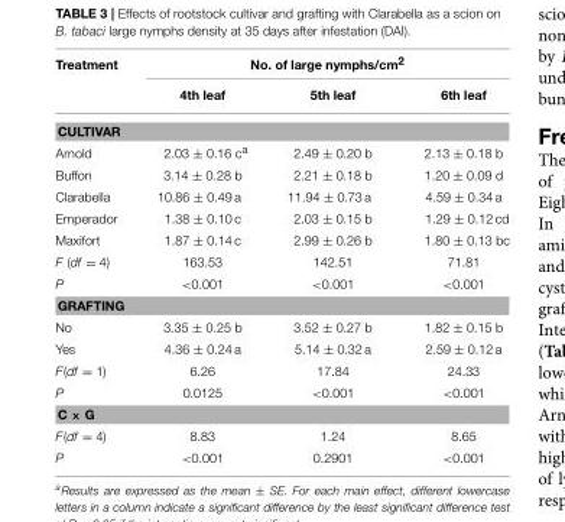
<table><thead><tr><td rowspan="2">Treatment</td><td colspan="3">No. of large nymphs/cm<sup>2</sup></td></tr><tr><td>4th leaf</td><td>5th leaf</td><td>6th leaf</td></tr></thead><tbody><tr><td colspan="4">CULTIVAR</td></tr><tr><td>Arnold</td><td>2.03 ± 0.16 c<sup>a</sup></td><td>2.49 ± 0.20 b</td><td>2.13 ± 0.18 b</td></tr><tr><td>Buffon</td><td>3.14 ± 0.28 b</td><td>2.21 ± 0.18 b</td><td>1.20 ± 0.09 d</td></tr><tr><td>Clarabella</td><td>10.86 ± 0.49 a</td><td>11.94 ± 0.73 a</td><td>4.59 ± 0.34 a</td></tr><tr><td>Emperador</td><td>1.38 ± 0.10 c</td><td>2.03 ± 0.15 b</td><td>1.29 ± 0.12 cd</td></tr><tr><td>Maxifort</td><td>1.87 ± 0.14 c</td><td>2.99 ± 0.26 b</td><td>1.80 ± 0.13 bc</td></tr><tr><td>F (df = 4)</td><td>163.53</td><td>142.51</td><td>71.81</td></tr><tr><td>P</td><td>&lt;0.001</td><td>&lt;0.001</td><td>&lt;0.001</td></tr><tr><td colspan="4">GRAFTING</td></tr><tr><td>No</td><td>3.35 ± 0.25 b</td><td>3.52 ± 0.27 b</td><td>1.82 ± 0.15 b</td></tr><tr><td>Yes</td><td>4.36 ± 0.24 a</td><td>5.14 ± 0.32 a</td><td>2.59 ± 0.12 a</td></tr><tr><td>F(df = 1)</td><td>6.26</td><td>17.84</td><td>24.33</td></tr><tr><td>P</td><td>0.0125</td><td>&lt;0.001</td><td>&lt;0.001</td></tr><tr><td colspan="4">C × G</td></tr><tr><td>F(df = 4)</td><td>8.83</td><td>1.24</td><td>8.65</td></tr><tr><td>P</td><td>&lt;0.001</td><td>0.2901</td><td>&lt;0.001</td></tr></tbody></table>